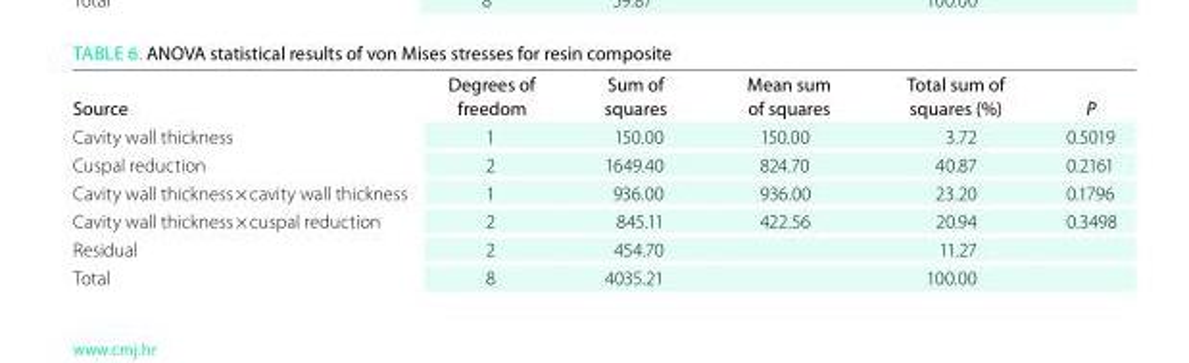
<table><thead><tr><td>source</td><td>Degrees of freedom</td><td>sum of squares</td><td>Mean sum of squares</td><td>total sum of squares (%)</td><td>P</td></tr></thead><tbody><tr><td>Cavity wall thickness</td><td>1</td><td>150.00</td><td>150.00</td><td>3.72</td><td>0.5019</td></tr><tr><td>Cuspal reduction</td><td>2</td><td>1649.40</td><td>824.70</td><td>40.87</td><td>0.2161</td></tr><tr><td>Cavity wall thickness × cavity wall thickness</td><td>1</td><td>936.00</td><td>936.00</td><td>23.20</td><td>0.1796</td></tr><tr><td>Cavity wall thickness × cuspal reduction</td><td>2</td><td>845.11</td><td>422.56</td><td>20.94</td><td>0.3498</td></tr><tr><td>Residual</td><td>2</td><td>454.70</td><td></td><td>11.27</td><td></td></tr><tr><td>Total</td><td>8</td><td>4035.21</td><td></td><td>100.00</td><td></td></tr></tbody></table>